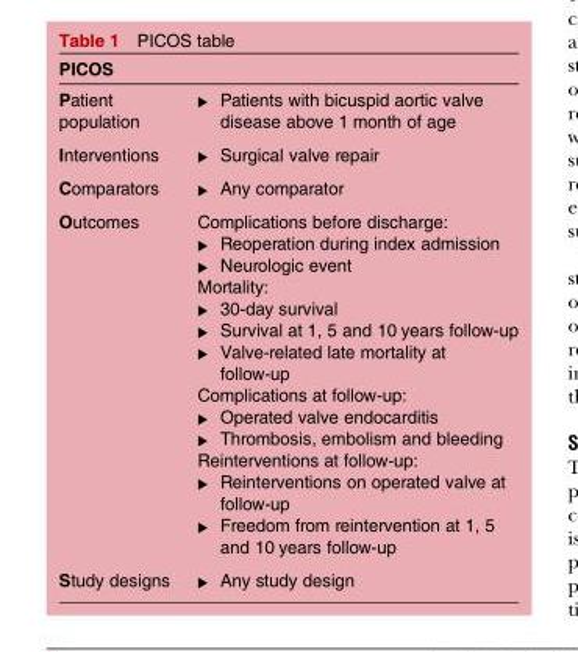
<table><thead><tr><td colspan="2">PICOS</td></tr><tr><td>Patient population</td><td>▸ Patients with bicuspid aortic valve disease above 1 month of age</td></tr></thead><tbody><tr><td>Interventions</td><td>▸ Surgical valve repair</td></tr><tr><td>Comparators</td><td>▸ Any comparator</td></tr><tr><td>Outcomes</td><td>Complications before discharge: ▸ Reoperation during index admission ▸ Neurologic event Mortality: ▸ 30-day survival ▸ Survival at 1, 5 and 10 years follow-up ▸ Valve-related late mortality at follow-up Complications at follow-up: ▸ Operated valve endocarditis ▸ Thrombosis, embolism and bleeding Reinterventions at follow-up: ▸ Reinterventions on operated valve at follow-up ▸ Freedom from reintervention at 1, 5 and 10 years follow-up</td></tr><tr><td>Study designs</td><td>▸ Any study design</td></tr></tbody></table>